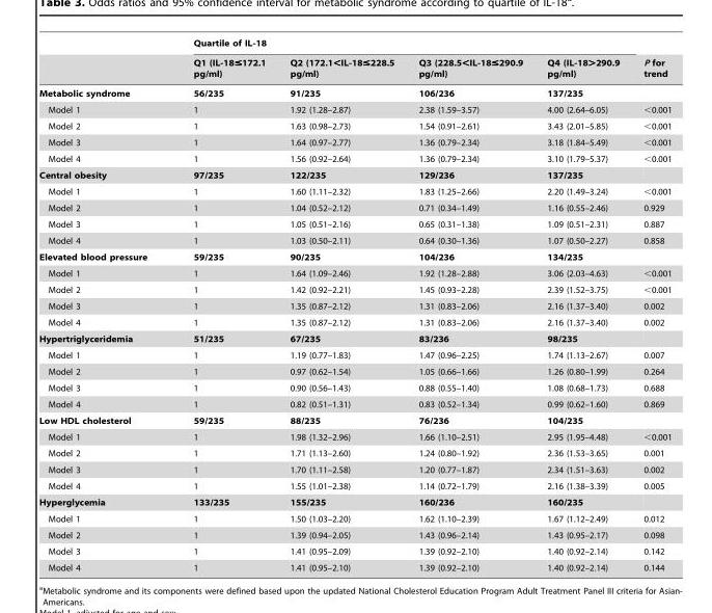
<table><thead><tr><td rowspan="2"></td><td colspan="4">Quartile of IL-18</td><td rowspan="2">P for trend</td></tr><tr><td>Q1 (IL-18≤172.1 pg/ml)</td><td>Q2 (172.1&lt;IL-18≤228.5 pg/ml)</td><td>Q3 (228.5&lt;IL-18≤290.9 pg/ml)</td><td>Q4 (IL-18&gt;290.9 pg/ml)</td></tr></thead><tbody><tr><td>Metabolic syndrome</td><td>56/235</td><td>91/235</td><td>106/236</td><td>137/235</td><td></td></tr><tr><td>Model 1</td><td>1</td><td>1.92 (1.28–2.87)</td><td>2.38 (1.59–3.57)</td><td>4.00 (2.64–6.05)</td><td>&lt;0.001</td></tr><tr><td>Model 2</td><td>1</td><td>1.63 (0.98–2.73)</td><td>1.54 (0.91–2.61)</td><td>3.43 (2.01–5.85)</td><td>&lt;0.001</td></tr><tr><td>Model 3</td><td>1</td><td>1.64 (0.97–2.77)</td><td>1.36 (0.79–2.34)</td><td>3.18 (1.84–5.49)</td><td>&lt;0.001</td></tr><tr><td>Model 4</td><td>1</td><td>1.56 (0.92–2.64)</td><td>1.36 (0.79–2.34)</td><td>3.10 (1.79–5.37)</td><td>&lt;0.001</td></tr><tr><td>Central obesity</td><td>97/235</td><td>122/235</td><td>129/236</td><td>137/235</td><td></td></tr><tr><td>Model 1</td><td>1</td><td>1.60 (1.11–2.32)</td><td>1.83 (1.25–2.66)</td><td>2.20 (1.49–3.24)</td><td>&lt;0.001</td></tr><tr><td>Model 2</td><td>1</td><td>1.04 (0.52–2.12)</td><td>0.71 (0.34–1.49)</td><td>1.16 (0.55–2.46)</td><td>0.929</td></tr><tr><td>Model 3</td><td>1</td><td>1.05 (0.51–2.16)</td><td>0.65 (0.31–1.38)</td><td>1.09 (0.51–2.31)</td><td>0.887</td></tr><tr><td>Model 4</td><td>1</td><td>1.03 (0.50–2.11)</td><td>0.64 (0.30–1.36)</td><td>1.07 (0.50–2.27)</td><td>0.858</td></tr><tr><td>Elevated blood pressure</td><td>59/235</td><td>90/235</td><td>104/236</td><td>134/235</td><td></td></tr><tr><td>Model 1</td><td>1</td><td>1.64 (1.09–2.46)</td><td>1.92 (1.28–2.88)</td><td>3.06 (2.03–4.63)</td><td>&lt;0.001</td></tr><tr><td>Model 2</td><td>1</td><td>1.42 (0.92–2.21)</td><td>1.45 (0.93–2.28)</td><td>2.39 (1.52–3.75)</td><td>&lt;0.001</td></tr><tr><td>Model 3</td><td>1</td><td>1.35 (0.87–2.12)</td><td>1.31 (0.83–2.06)</td><td>2.16 (1.37–3.40)</td><td>0.002</td></tr><tr><td>Model 4</td><td>1</td><td>1.35 (0.87–2.12)</td><td>1.31 (0.83–2.06)</td><td>2.16 (1.37–3.40)</td><td>0.002</td></tr><tr><td>Hypertriglyceridemia</td><td>51/235</td><td>67/235</td><td>83/236</td><td>98/235</td><td></td></tr><tr><td>Model 1</td><td>1</td><td>1.19 (0.77–1.83)</td><td>1.47 (0.96–2.25)</td><td>1.74 (1.13–2.67)</td><td>0.007</td></tr><tr><td>Model 2</td><td>1</td><td>0.97 (0.62–1.54)</td><td>1.05 (0.66–1.66)</td><td>1.26 (0.80–1.99)</td><td>0.264</td></tr><tr><td>Model 3</td><td>1</td><td>0.90 (0.56–1.43)</td><td>0.88 (0.55–1.40)</td><td>1.08 (0.68–1.73)</td><td>0.688</td></tr><tr><td>Model 4</td><td>1</td><td>0.82 (0.51–1.31)</td><td>0.83 (0.52–1.34)</td><td>0.99 (0.62–1.60)</td><td>0.869</td></tr><tr><td>Low HDL cholesterol</td><td>59/235</td><td>88/235</td><td>76/236</td><td>104/235</td><td></td></tr><tr><td>Model 1</td><td>1</td><td>1.98 (1.32–2.96)</td><td>1.66 (1.10–2.51)</td><td>2.95 (1.95–4.48)</td><td>&lt;0.001</td></tr><tr><td>Model 2</td><td>1</td><td>1.71 (1.13–2.60)</td><td>1.24 (0.80–1.92)</td><td>2.36 (1.53–3.65)</td><td>0.001</td></tr><tr><td>Model 3</td><td>1</td><td>1.70 (1.11–2.58)</td><td>1.20 (0.77–1.87)</td><td>2.34 (1.51–3.63)</td><td>0.002</td></tr><tr><td>Model 4</td><td>1</td><td>1.55 (1.01–2.38)</td><td>1.14 (0.72–1.79)</td><td>2.16 (1.38–3.39)</td><td>0.005</td></tr><tr><td>Hyperglycemia</td><td>133/235</td><td>155/235</td><td>160/236</td><td>160/235</td><td></td></tr><tr><td>Model 1</td><td>1</td><td>1.50 (1.03–2.20)</td><td>1.62 (1.10–2.39)</td><td>1.67 (1.12–2.49)</td><td>0.012</td></tr><tr><td>Model 2</td><td>1</td><td>1.39 (0.94–2.05)</td><td>1.43 (0.96–2.14)</td><td>1.43 (0.95–2.17)</td><td>0.098</td></tr><tr><td>Model 3</td><td>1</td><td>1.41 (0.95–2.09)</td><td>1.39 (0.92–2.10)</td><td>1.40 (0.92–2.14)</td><td>0.142</td></tr><tr><td>Model 4</td><td>1</td><td>1.41 (0.95–2.10)</td><td>1.39 (0.92–2.10)</td><td>1.40 (0.92–2.14)</td><td>0.144</td></tr></tbody></table>